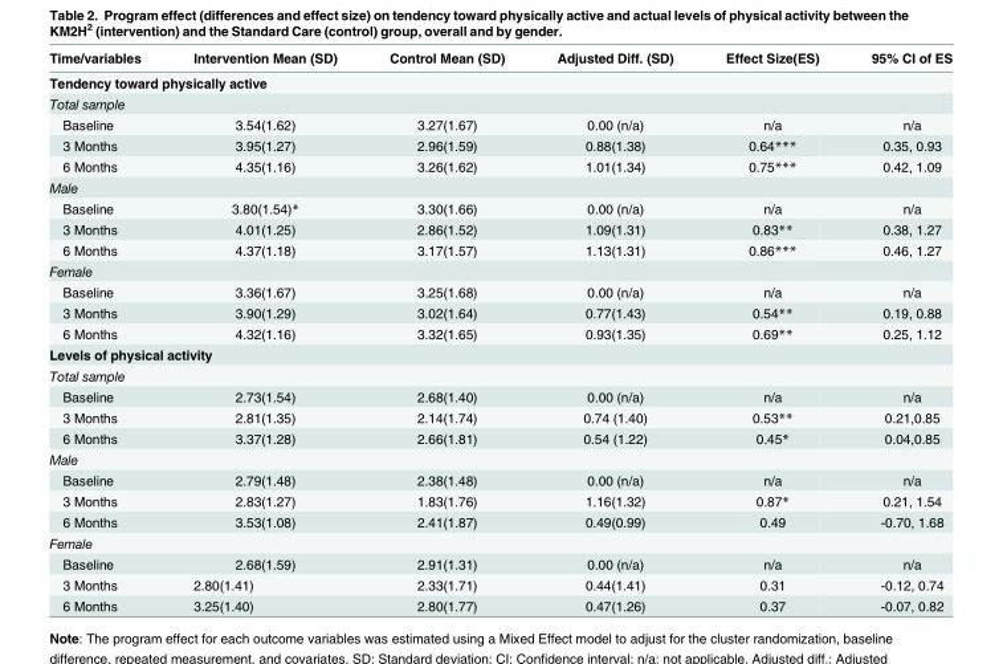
<table><thead><tr><td>Time/variables</td><td>Intervention Mean (SD)</td><td>Control Mean (SD)</td><td>Adjusted Diff. (SD)</td><td>Effect Size(ES)</td><td>95% CI of ES</td></tr></thead><tbody><tr><td colspan="6">Tendency toward physically active</td></tr><tr><td colspan="6">Total sample</td></tr><tr><td>Baseline</td><td>3.54(1.62)</td><td>3.27(1.67)</td><td>0.00 (n/a)</td><td>n/a</td><td>n/a</td></tr><tr><td>3 Months</td><td>3.95(1.27)</td><td>2.96(1.59)</td><td>0.88(1.38)</td><td>0.64***</td><td>0.35, 0.93</td></tr><tr><td>6 Months</td><td>4.35(1.16)</td><td>3.26(1.62)</td><td>1.01(1.34)</td><td>0.75***</td><td>0.42, 1.09</td></tr><tr><td colspan="6">Male</td></tr><tr><td>Baseline</td><td>3.80(1.54)*</td><td>3.30(1.66)</td><td>0.00 (n/a)</td><td>n/a</td><td>n/a</td></tr><tr><td>3 Months</td><td>4.01(1.25)</td><td>2.86(1.52)</td><td>1.09(1.31)</td><td>0.83**</td><td>0.38, 1.27</td></tr><tr><td>6 Months</td><td>4.37(1.18)</td><td>3.17(1.57)</td><td>1.13(1.31)</td><td>0.86***</td><td>0.46, 1.27</td></tr><tr><td colspan="6">Female</td></tr><tr><td>Baseline</td><td>3.36(1.67)</td><td>3.25(1.68)</td><td>0.00 (n/a)</td><td>n/a</td><td>n/a</td></tr><tr><td>3 Months</td><td>3.90(1.29)</td><td>3.02(1.64)</td><td>0.77(1.43)</td><td>0.54**</td><td>0.19, 0.88</td></tr><tr><td>6 Months</td><td>4.32(1.16)</td><td>3.32(1.65)</td><td>0.93(1.35)</td><td>0.69**</td><td>0.25, 1.12</td></tr><tr><td colspan="6">Levels of physical activity</td></tr><tr><td colspan="6">Total sample</td></tr><tr><td>Baseline</td><td>2.73(1.54)</td><td>2.68(1.40)</td><td>0.00 (n/a)</td><td>n/a</td><td>n/a</td></tr><tr><td>3 Months</td><td>2.81(1.35)</td><td>2.14(1.74)</td><td>0.74 (1.40)</td><td>0.53**</td><td>0.21,0.85</td></tr><tr><td>6 Months</td><td>3.37(1.28)</td><td>2.66(1.81)</td><td>0.54 (1.22)</td><td>0.45*</td><td>0.04,0.85</td></tr><tr><td colspan="6">Male</td></tr><tr><td>Baseline</td><td>2.79(1.48)</td><td>2.38(1.48)</td><td>0.00 (n/a)</td><td>n/a</td><td>n/a</td></tr><tr><td>3 Months</td><td>2.83(1.27)</td><td>1.83(1.76)</td><td>1.16(1.32)</td><td>0.87*</td><td>0.21, 1.54</td></tr><tr><td>6 Months</td><td>3.53(1.08)</td><td>2.41(1.87)</td><td>0.49(0.99)</td><td>0.49</td><td>-0.70, 1.68</td></tr><tr><td colspan="6">Female</td></tr><tr><td>Baseline</td><td>2.68(1.59)</td><td>2.91(1.31)</td><td>0.00 (n/a)</td><td>n/a</td><td>n/a</td></tr><tr><td>3 Months</td><td>2.80(1.41)</td><td>2.33(1.71)</td><td>0.44(1.41)</td><td>0.31</td><td>-0.12, 0.74</td></tr><tr><td>6 Months</td><td>3.25(1.40)</td><td>2.80(1.77)</td><td>0.47(1.26)</td><td>0.37</td><td>-0.07, 0.82</td></tr></tbody></table>